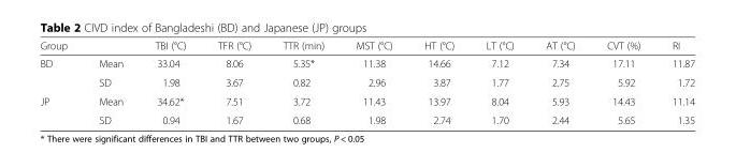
<table><thead><tr><td>Group</td><td></td><td>TBI (°C)</td><td>TFR (°C)</td><td>TTR (min)</td><td>MST (°C)</td><td>HT (°C)</td><td>LT (°C)</td><td>AT (°C)</td><td>CVT (%)</td><td>RI</td></tr></thead><tbody><tr><td rowspan="2">BD</td><td>Mean</td><td>33.04</td><td>8.06</td><td>5.35*</td><td>11.38</td><td>14.66</td><td>7.12</td><td>7.34</td><td>17.11</td><td>11.87</td></tr><tr><td>SD</td><td>1.98</td><td>3.67</td><td>0.82</td><td>2.96</td><td>3.87</td><td>1.77</td><td>2.75</td><td>5.92</td><td>1.72</td></tr><tr><td rowspan="2">JP</td><td>Mean</td><td>34.62*</td><td>7.51</td><td>3.72</td><td>11.43</td><td>13.97</td><td>8.04</td><td>5.93</td><td>14.43</td><td>11.14</td></tr><tr><td>SD</td><td>0.94</td><td>1.67</td><td>0.68</td><td>1.98</td><td>2.74</td><td>1.70</td><td>2.44</td><td>5.65</td><td>1.35</td></tr></tbody></table>